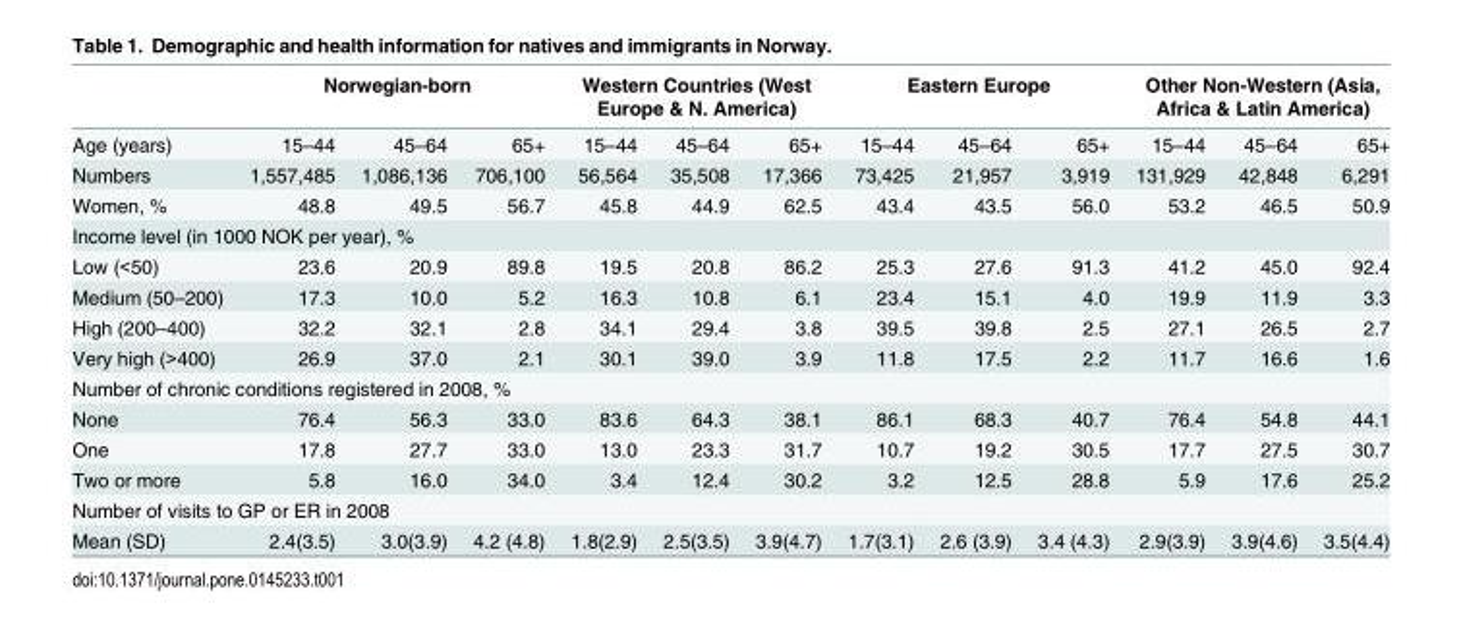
<table><thead><tr><td rowspan="2">Age (years)</td><td colspan="3">Norwegian-born</td><td colspan="3">Western Countries (West Europe &amp; N. America)</td><td colspan="3">Eastern Europe</td><td colspan="3">Other Non-Western (Asia, Africa &amp; Latin America)</td></tr><tr><td>15–44</td><td>45–64</td><td>65+</td><td>15–44</td><td>45–64</td><td>65+</td><td>15–44</td><td>45–64</td><td>65+</td><td>15–44</td><td>45–64</td><td>65+</td></tr></thead><tbody><tr><td>Numbers</td><td>1,557,485</td><td>1,086,136</td><td>706,100</td><td>56,564</td><td>35,508</td><td>17,366</td><td>73,425</td><td>21,957</td><td>3,919</td><td>131,929</td><td>42,848</td><td>6,291</td></tr><tr><td>Women, %</td><td>48.8</td><td>49.5</td><td>56.7</td><td>45.8</td><td>44.9</td><td>62.5</td><td>43.4</td><td>43.5</td><td>56.0</td><td>53.2</td><td>46.5</td><td>50.9</td></tr><tr><td colspan="13">Income level (in 1000 NOK per year), %</td></tr><tr><td>Low (&lt;50)</td><td>23.6</td><td>20.9</td><td>89.8</td><td>19.5</td><td>20.8</td><td>86.2</td><td>25.3</td><td>27.6</td><td>91.3</td><td>41.2</td><td>45.0</td><td>92.4</td></tr><tr><td>Medium (50–200)</td><td>17.3</td><td>10.0</td><td>5.2</td><td>16.3</td><td>10.8</td><td>6.1</td><td>23.4</td><td>15.1</td><td>4.0</td><td>19.9</td><td>11.9</td><td>3.3</td></tr><tr><td>High (200–400)</td><td>32.2</td><td>32.1</td><td>2.8</td><td>34.1</td><td>29.4</td><td>3.8</td><td>39.5</td><td>39.8</td><td>2.5</td><td>27.1</td><td>26.5</td><td>2.7</td></tr><tr><td>Very high (&gt;400)</td><td>26.9</td><td>37.0</td><td>2.1</td><td>30.1</td><td>39.0</td><td>3.9</td><td>11.8</td><td>17.5</td><td>2.2</td><td>11.7</td><td>16.6</td><td>1.6</td></tr><tr><td colspan="13">Number of chronic conditions registered in 2008, %</td></tr><tr><td>None</td><td>76.4</td><td>56.3</td><td>33.0</td><td>83.6</td><td>64.3</td><td>38.1</td><td>86.1</td><td>68.3</td><td>40.7</td><td>76.4</td><td>54.8</td><td>44.1</td></tr><tr><td>One</td><td>17.8</td><td>27.7</td><td>33.0</td><td>13.0</td><td>23.3</td><td>31.7</td><td>10.7</td><td>19.2</td><td>30.5</td><td>17.7</td><td>27.5</td><td>30.7</td></tr><tr><td>Two or more</td><td>5.8</td><td>16.0</td><td>34.0</td><td>3.4</td><td>12.4</td><td>30.2</td><td>3.2</td><td>12.5</td><td>28.8</td><td>5.9</td><td>17.6</td><td>25.2</td></tr><tr><td colspan="13">Number of visits to GP or ER in 2008</td></tr><tr><td>Mean (SD)</td><td>2.4(3.5)</td><td>3.0(3.9)</td><td>4.2 (4.8)</td><td>1.8(2.9)</td><td>2.5(3.5)</td><td>3.9(4.7)</td><td>1.7(3.1)</td><td>2.6 (3.9)</td><td>3.4 (4.3)</td><td>2.9(3.9)</td><td>3.9(4.6)</td><td>3.5(4.4)</td></tr></tbody></table>